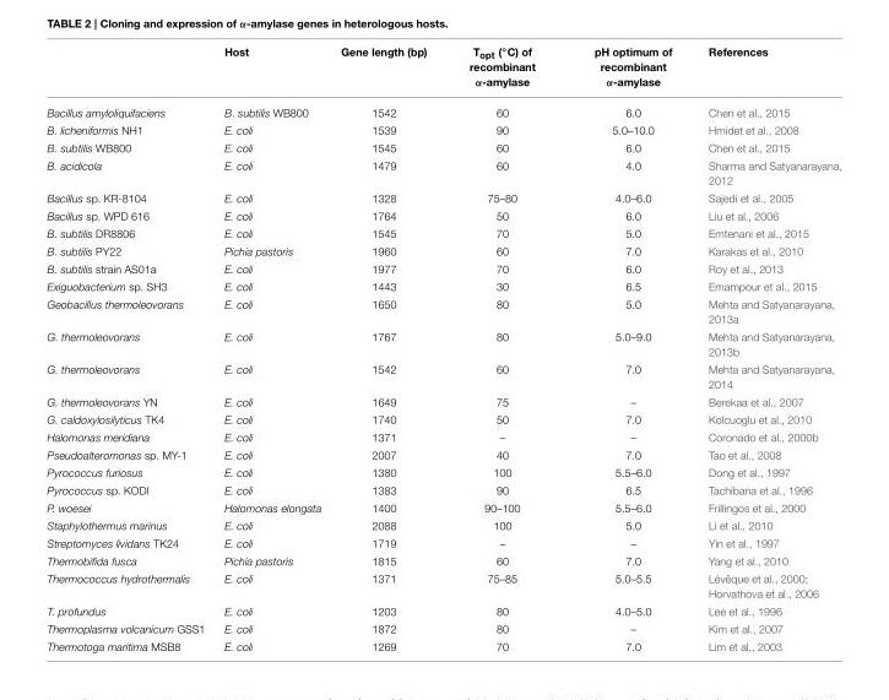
<table><thead><tr><td></td><td>Host</td><td>Gene length (bp)</td><td>Topt (◦C) of recombinant α-amylase</td><td>pH optimum of recombinant α-amylase</td><td>References</td></tr></thead><tbody><tr><td>Bacillus amyloliquifaciens</td><td>B. subtilis WB800</td><td>1542</td><td>60</td><td>6.0</td><td>Chen et al., 2015</td></tr><tr><td>B. licheniformis NH1</td><td>E. coli</td><td>1539</td><td>90</td><td>5.0–10.0</td><td>Hmidet et al., 2008</td></tr><tr><td>B. subtilis WB800</td><td>E. coli</td><td>1545</td><td>60</td><td>6.0</td><td>Chen et al., 2015</td></tr><tr><td>B. acidicola</td><td>E. coli</td><td>1479</td><td>60</td><td>4.0</td><td>Sharma and Satyanarayana, 2012</td></tr><tr><td>Bacillus sp. KR-8104</td><td>E. coli</td><td>1328</td><td>75–80</td><td>4.0–6.0</td><td>Sajedi et al., 2005</td></tr><tr><td>Bacillus sp. WPD 616</td><td>E. coli</td><td>1764</td><td>50</td><td>6.0</td><td>Liu et al., 2006</td></tr><tr><td>B. subtilis DR8806</td><td>E. coli</td><td>1545</td><td>70</td><td>5.0</td><td>Emtenani et al., 2015</td></tr><tr><td>B. subtilis PY22</td><td>Pichia pastoris</td><td>1960</td><td>60</td><td>7.0</td><td>Karakas et al., 2010</td></tr><tr><td>B. subtilis strain AS01a</td><td>E. coli</td><td>1977</td><td>70</td><td>6.0</td><td>Roy et al., 2013</td></tr><tr><td>Exiguobacterium sp. SH3</td><td>E. coli</td><td>1443</td><td>30</td><td>6.5</td><td>Emampour et al., 2015</td></tr><tr><td>Geobacillus thermoleovorans</td><td>E. coli</td><td>1650</td><td>80</td><td>5.0</td><td>Mehta and Satyanarayana, 2013a</td></tr><tr><td>G. thermoleovorans</td><td>E. coli</td><td>1767</td><td>80</td><td>5.0–9.0</td><td>Mehta and Satyanarayana, 2013b</td></tr><tr><td>G. thermoleovorans</td><td>E. coli</td><td>1542</td><td>60</td><td>7.0</td><td>Mehta and Satyanarayana, 2014</td></tr><tr><td>G. thermoleovorans YN</td><td>E. coli</td><td>1649</td><td>75</td><td>–</td><td>Berekaa et al., 2007</td></tr><tr><td>G. caldoxylosilyticus TK4</td><td>E. coli</td><td>1740</td><td>50</td><td>7.0</td><td>Kolcuoglu et al., 2010</td></tr><tr><td>Halomonas meridiana</td><td>E. coli</td><td>1371</td><td>–</td><td>–</td><td>Coronado et al., 2000b</td></tr><tr><td>Pseudoalteromonas sp. MY-1</td><td>E. coli</td><td>2007</td><td>40</td><td>7.0</td><td>Tao et al., 2008</td></tr><tr><td>Pyrococcus furiosus</td><td>E. coli</td><td>1380</td><td>100</td><td>5.5–6.0</td><td>Dong et al., 1997</td></tr><tr><td>Pyrococcus sp. KODl</td><td>E. coli</td><td>1383</td><td>90</td><td>6.5</td><td>Tachibana et al., 1996</td></tr><tr><td>P. woesei</td><td>Halomonas elongata</td><td>1400</td><td>90–100</td><td>5.5–6.0</td><td>Frillingos et al., 2000</td></tr><tr><td>Staphylothermus marinus</td><td>E. coli</td><td>2088</td><td>100</td><td>5.0</td><td>Li et al., 2010</td></tr><tr><td>Streptomyces lividans TK24</td><td>E. coli</td><td>1719</td><td>–</td><td>–</td><td>Yin et al., 1997</td></tr><tr><td>Thermobifida fusca</td><td>Pichia pastoris</td><td>1815</td><td>60</td><td>7.0</td><td>Yang et al., 2010</td></tr><tr><td>Thermococcus hydrothermalis</td><td>E. coli</td><td>1371</td><td>75–85</td><td>5.0–5.5</td><td>Lévêque et al., 2000; Horvathova et al., 2006</td></tr><tr><td>T. profundus</td><td>E. coli</td><td>1203</td><td>80</td><td>4.0–5.0</td><td>Lee et al., 1996</td></tr><tr><td>Thermoplasma volcanicum GSS1</td><td>E. coli</td><td>1872</td><td>80</td><td>–</td><td>Kim et al., 2007</td></tr><tr><td>Thermotoga maritima MSB8</td><td>E. coli</td><td>1269</td><td>70</td><td>7.0</td><td>Lim et al., 2003</td></tr></tbody></table>